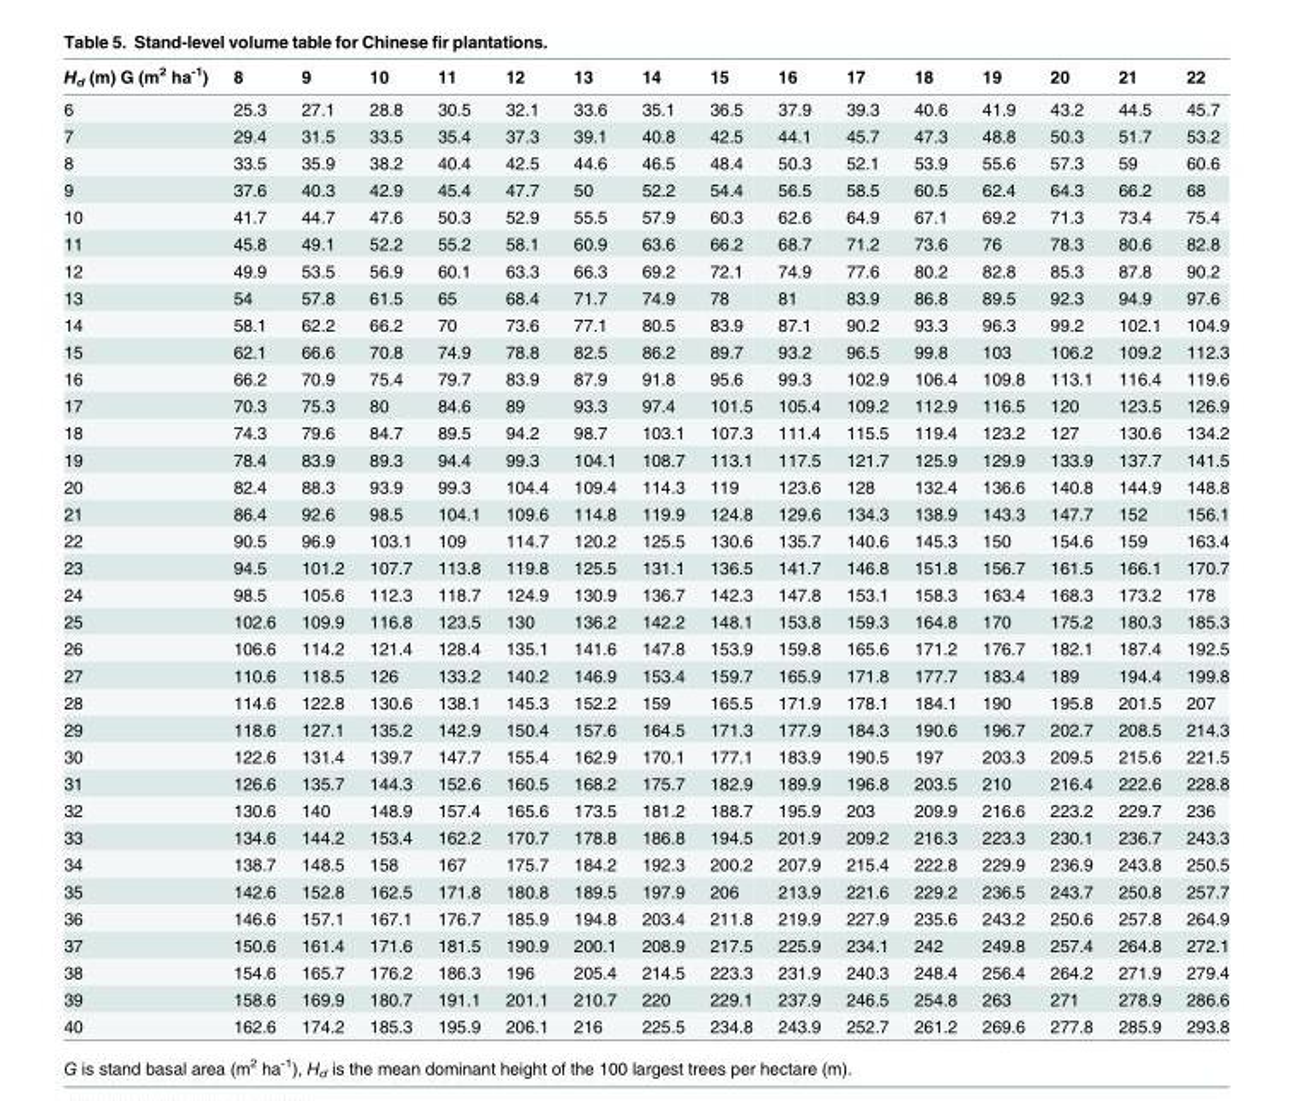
<table><thead><tr><td>H<sub>d</sub> (m) G (m<sup>2</sup> ha<sup>-1</sup>)</td><td>8</td><td>9</td><td>10</td><td>11</td><td>12</td><td>13</td><td>14</td><td>15</td><td>16</td><td>17</td><td>18</td><td>19</td><td>20</td><td>21</td><td>22</td></tr></thead><tbody><tr><td>6</td><td>25.3</td><td>27.1</td><td>28.8</td><td>30.5</td><td>32.1</td><td>33.6</td><td>35.1</td><td>36.5</td><td>37.9</td><td>39.3</td><td>40.6</td><td>41.9</td><td>43.2</td><td>44.5</td><td>45.7</td></tr><tr><td>7</td><td>29.4</td><td>31.5</td><td>33.5</td><td>35.4</td><td>37.3</td><td>39.1</td><td>40.8</td><td>42.5</td><td>44.1</td><td>45.7</td><td>47.3</td><td>48.8</td><td>50.3</td><td>51.7</td><td>53.2</td></tr><tr><td>8</td><td>33.5</td><td>35.9</td><td>38.2</td><td>40.4</td><td>42.5</td><td>44.6</td><td>46.5</td><td>48.4</td><td>50.3</td><td>52.1</td><td>53.9</td><td>55.6</td><td>57.3</td><td>59</td><td>60.6</td></tr><tr><td>9</td><td>37.6</td><td>40.3</td><td>42.9</td><td>45.4</td><td>47.7</td><td>50</td><td>52.2</td><td>54.4</td><td>56.5</td><td>58.5</td><td>60.5</td><td>62.4</td><td>64.3</td><td>66.2</td><td>68</td></tr><tr><td>10</td><td>41.7</td><td>44.7</td><td>47.6</td><td>50.3</td><td>52.9</td><td>55.5</td><td>57.9</td><td>60.3</td><td>62.6</td><td>64.9</td><td>67.1</td><td>69.2</td><td>71.3</td><td>73.4</td><td>75.4</td></tr><tr><td>11</td><td>45.8</td><td>49.1</td><td>52.2</td><td>55.2</td><td>58.1</td><td>60.9</td><td>63.6</td><td>66.2</td><td>68.7</td><td>71.2</td><td>73.6</td><td>76</td><td>78.3</td><td>80.6</td><td>82.8</td></tr><tr><td>12</td><td>49.9</td><td>53.5</td><td>56.9</td><td>60.1</td><td>63.3</td><td>66.3</td><td>69.2</td><td>72.1</td><td>74.9</td><td>77.6</td><td>80.2</td><td>82.8</td><td>85.3</td><td>87.8</td><td>90.2</td></tr><tr><td>13</td><td>54</td><td>57.8</td><td>61.5</td><td>65</td><td>68.4</td><td>71.7</td><td>74.9</td><td>78</td><td>81</td><td>83.9</td><td>86.8</td><td>89.5</td><td>92.3</td><td>94.9</td><td>97.6</td></tr><tr><td>14</td><td>58.1</td><td>62.2</td><td>66.2</td><td>70</td><td>73.6</td><td>77.1</td><td>80.5</td><td>83.9</td><td>87.1</td><td>90.2</td><td>93.3</td><td>96.3</td><td>99.2</td><td>102.1</td><td>104.9</td></tr><tr><td>15</td><td>62.1</td><td>66.6</td><td>70.8</td><td>74.9</td><td>78.8</td><td>82.5</td><td>86.2</td><td>89.7</td><td>93.2</td><td>96.5</td><td>99.8</td><td>103</td><td>106.2</td><td>109.2</td><td>112.3</td></tr><tr><td>16</td><td>66.2</td><td>70.9</td><td>75.4</td><td>79.7</td><td>83.9</td><td>87.9</td><td>91.8</td><td>95.6</td><td>99.3</td><td>102.9</td><td>106.4</td><td>109.8</td><td>113.1</td><td>116.4</td><td>119.6</td></tr><tr><td>17</td><td>70.3</td><td>75.3</td><td>80</td><td>84.6</td><td>89</td><td>93.3</td><td>97.4</td><td>101.5</td><td>105.4</td><td>109.2</td><td>112.9</td><td>116.5</td><td>120</td><td>123.5</td><td>126.9</td></tr><tr><td>18</td><td>74.3</td><td>79.6</td><td>84.7</td><td>89.5</td><td>94.2</td><td>98.7</td><td>103.1</td><td>107.3</td><td>111.4</td><td>115.5</td><td>119.4</td><td>123.2</td><td>127</td><td>130.6</td><td>134.2</td></tr><tr><td>19</td><td>78.4</td><td>83.9</td><td>89.3</td><td>94.4</td><td>99.3</td><td>104.1</td><td>108.7</td><td>113.1</td><td>117.5</td><td>121.7</td><td>125.9</td><td>129.9</td><td>133.9</td><td>137.7</td><td>141.5</td></tr><tr><td>20</td><td>82.4</td><td>88.3</td><td>93.9</td><td>99.3</td><td>104.4</td><td>109.4</td><td>114.3</td><td>119</td><td>123.6</td><td>128</td><td>132.4</td><td>136.6</td><td>140.8</td><td>144.9</td><td>148.8</td></tr><tr><td>21</td><td>86.4</td><td>92.6</td><td>98.5</td><td>104.1</td><td>109.6</td><td>114.8</td><td>119.9</td><td>124.8</td><td>129.6</td><td>134.3</td><td>138.9</td><td>143.3</td><td>147.7</td><td>152</td><td>156.1</td></tr><tr><td>22</td><td>90.5</td><td>96.9</td><td>103.1</td><td>109</td><td>114.7</td><td>120.2</td><td>125.5</td><td>130.6</td><td>135.7</td><td>140.6</td><td>145.3</td><td>150</td><td>154.6</td><td>159</td><td>163.4</td></tr><tr><td>23</td><td>94.5</td><td>101.2</td><td>107.7</td><td>113.8</td><td>119.8</td><td>125.5</td><td>131.1</td><td>136.5</td><td>141.7</td><td>146.8</td><td>151.8</td><td>156.7</td><td>161.5</td><td>166.1</td><td>170.7</td></tr><tr><td>24</td><td>98.5</td><td>105.6</td><td>112.3</td><td>118.7</td><td>124.9</td><td>130.9</td><td>136.7</td><td>142.3</td><td>147.8</td><td>153.1</td><td>158.3</td><td>163.4</td><td>168.3</td><td>173.2</td><td>178</td></tr><tr><td>25</td><td>102.6</td><td>109.9</td><td>116.8</td><td>123.5</td><td>130</td><td>136.2</td><td>142.2</td><td>148.1</td><td>153.8</td><td>159.3</td><td>164.8</td><td>170</td><td>175.2</td><td>180.3</td><td>185.3</td></tr><tr><td>26</td><td>106.6</td><td>114.2</td><td>121.4</td><td>128.4</td><td>135.1</td><td>141.6</td><td>147.8</td><td>153.9</td><td>159.8</td><td>165.6</td><td>171.2</td><td>176.7</td><td>182.1</td><td>187.4</td><td>192.5</td></tr><tr><td>27</td><td>110.6</td><td>118.5</td><td>126</td><td>133.2</td><td>140.2</td><td>146.9</td><td>153.4</td><td>159.7</td><td>165.9</td><td>171.8</td><td>177.7</td><td>183.4</td><td>189</td><td>194.4</td><td>199.8</td></tr><tr><td>28</td><td>114.6</td><td>122.8</td><td>130.6</td><td>138.1</td><td>145.3</td><td>152.2</td><td>159</td><td>165.5</td><td>171.9</td><td>178.1</td><td>184.1</td><td>190</td><td>195.8</td><td>201.5</td><td>207</td></tr><tr><td>29</td><td>118.6</td><td>127.1</td><td>135.2</td><td>142.9</td><td>150.4</td><td>157.6</td><td>164.5</td><td>171.3</td><td>177.9</td><td>184.3</td><td>190.6</td><td>196.7</td><td>202.7</td><td>208.5</td><td>214.3</td></tr><tr><td>30</td><td>122.6</td><td>131.4</td><td>139.7</td><td>147.7</td><td>155.4</td><td>162.9</td><td>170.1</td><td>177.1</td><td>183.9</td><td>190.5</td><td>197</td><td>203.3</td><td>209.5</td><td>215.6</td><td>221.5</td></tr><tr><td>31</td><td>126.6</td><td>135.7</td><td>144.3</td><td>152.6</td><td>160.5</td><td>168.2</td><td>175.7</td><td>182.9</td><td>189.9</td><td>196.8</td><td>203.5</td><td>210</td><td>216.4</td><td>222.6</td><td>228.8</td></tr><tr><td>32</td><td>130.6</td><td>140</td><td>148.9</td><td>157.4</td><td>165.6</td><td>173.5</td><td>181.2</td><td>188.7</td><td>195.9</td><td>203</td><td>209.9</td><td>216.6</td><td>223.2</td><td>229.7</td><td>236</td></tr><tr><td>33</td><td>134.6</td><td>144.2</td><td>153.4</td><td>162.2</td><td>170.7</td><td>178.8</td><td>186.8</td><td>194.5</td><td>201.9</td><td>209.2</td><td>216.3</td><td>223.3</td><td>230.1</td><td>236.7</td><td>243.3</td></tr><tr><td>34</td><td>138.7</td><td>148.5</td><td>158</td><td>167</td><td>175.7</td><td>184.2</td><td>192.3</td><td>200.2</td><td>207.9</td><td>215.4</td><td>222.8</td><td>229.9</td><td>236.9</td><td>243.8</td><td>250.5</td></tr><tr><td>35</td><td>142.6</td><td>152.8</td><td>162.5</td><td>171.8</td><td>180.8</td><td>189.5</td><td>197.9</td><td>206</td><td>213.9</td><td>221.6</td><td>229.2</td><td>236.5</td><td>243.7</td><td>250.8</td><td>257.7</td></tr><tr><td>36</td><td>146.6</td><td>157.1</td><td>167.1</td><td>176.7</td><td>185.9</td><td>194.8</td><td>203.4</td><td>211.8</td><td>219.9</td><td>227.9</td><td>235.6</td><td>243.2</td><td>250.6</td><td>257.8</td><td>264.9</td></tr><tr><td>37</td><td>150.6</td><td>161.4</td><td>171.6</td><td>181.5</td><td>190.9</td><td>200.1</td><td>208.9</td><td>217.5</td><td>225.9</td><td>234.1</td><td>242</td><td>249.8</td><td>257.4</td><td>264.8</td><td>272.1</td></tr><tr><td>38</td><td>154.6</td><td>165.7</td><td>176.2</td><td>186.3</td><td>196</td><td>205.4</td><td>214.5</td><td>223.3</td><td>231.9</td><td>240.3</td><td>248.4</td><td>256.4</td><td>264.2</td><td>271.9</td><td>279.4</td></tr><tr><td>39</td><td>158.6</td><td>169.9</td><td>180.7</td><td>191.1</td><td>201.1</td><td>210.7</td><td>220</td><td>229.1</td><td>237.9</td><td>246.5</td><td>254.8</td><td>263</td><td>271</td><td>278.9</td><td>286.6</td></tr><tr><td>40</td><td>162.6</td><td>174.2</td><td>185.3</td><td>195.9</td><td>206.1</td><td>216</td><td>225.5</td><td>234.8</td><td>243.9</td><td>252.7</td><td>261.2</td><td>269.6</td><td>277.8</td><td>285.9</td><td>293.8</td></tr></tbody></table>